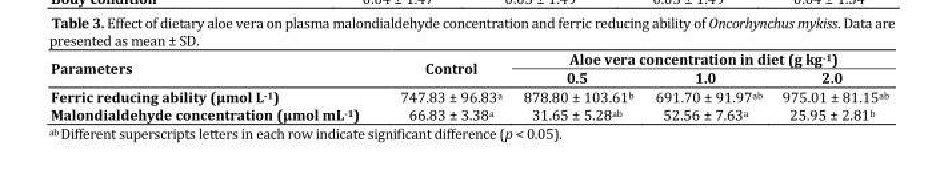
<table><thead><tr><td rowspan="2">Parameters</td><td rowspan="2">Control</td><td colspan="3">Aloe vera concentration in diet (g kg<sup>-1</sup>)</td></tr><tr><td>0.5</td><td>1.0</td><td>2.0</td></tr></thead><tbody><tr><td>Ferric reducing ability (μmol L<sup>-1</sup>)</td><td>747.83 ± 96.83<sup>a</sup></td><td>878.80 ± 103.61<sup>b</sup></td><td>691.70 ± 91.97<sup>ab</sup></td><td>975.01 ± 81.15<sup>ab</sup></td></tr><tr><td>Malondialdehyde concentration (μmol mL<sup>-1</sup>)</td><td>66.83 ± 3.38<sup>a</sup></td><td>31.65 ± 5.28<sup>ab</sup></td><td>52.56 ± 7.63<sup>a</sup></td><td>25.95 ± 2.81<sup>b</sup></td></tr></tbody></table>